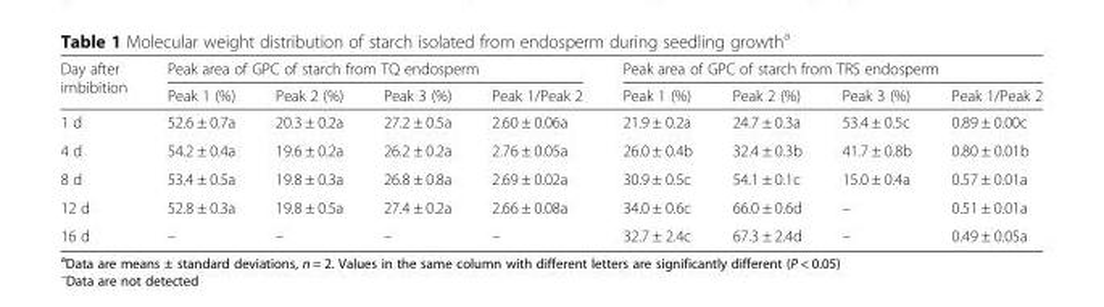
<table><thead><tr><td rowspan="2">Day after imbibition</td><td colspan="4">Peak area of GPC of starch from TQ endosperm</td><td colspan="4">Peak area of GPC of starch from TRS endosperm</td></tr><tr><td>Peak 1 (%)</td><td>Peak 2 (%)</td><td>Peak 3 (%)</td><td>Peak 1/Peak 2</td><td>Peak 1 (%)</td><td>Peak 2 (%)</td><td>Peak 3 (%)</td><td>Peak 1/Peak 2</td></tr></thead><tbody><tr><td>1 d</td><td>52.6 ± 0.7a</td><td>20.3 ± 0.2a</td><td>27.2 ± 0.5a</td><td>2.60 ± 0.06a</td><td>21.9 ± 0.2a</td><td>24.7 ± 0.3a</td><td>53.4 ± 0.5c</td><td>0.89 ± 0.00c</td></tr><tr><td>4 d</td><td>54.2 ± 0.4a</td><td>19.6 ± 0.2a</td><td>26.2 ± 0.2a</td><td>2.76 ± 0.05a</td><td>26.0 ± 0.4b</td><td>32.4 ± 0.3b</td><td>41.7 ± 0.8b</td><td>0.80 ± 0.01b</td></tr><tr><td>8 d</td><td>53.4 ± 0.5a</td><td>19.8 ± 0.3a</td><td>26.8 ± 0.8a</td><td>2.69 ± 0.02a</td><td>30.9 ± 0.5c</td><td>54.1 ± 0.1c</td><td>15.0 ± 0.4a</td><td>0.57 ± 0.01a</td></tr><tr><td>12 d</td><td>52.8 ± 0.3a</td><td>19.8 ± 0.5a</td><td>27.4 ± 0.2a</td><td>2.66 ± 0.08a</td><td>34.0 ± 0.6c</td><td>66.0 ± 0.6d</td><td>–</td><td>0.51 ± 0.01a</td></tr><tr><td>16 d</td><td>–</td><td>–</td><td>–</td><td>–</td><td>32.7 ± 2.4c</td><td>67.3 ± 2.4d</td><td>–</td><td>0.49 ± 0.05a</td></tr></tbody></table>